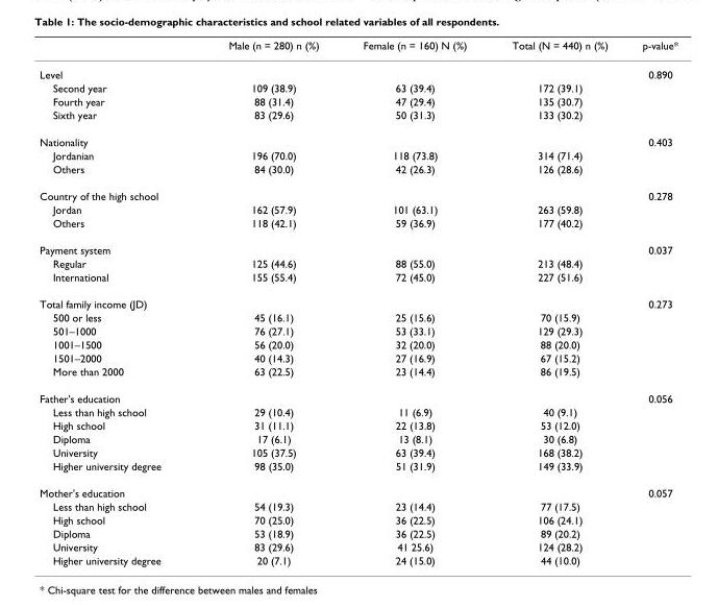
<table><thead><tr><td></td><td>Male (n = 280) n (%)</td><td>Female (n = 160) N (%)</td><td>Total (N = 440) n (%)</td><td>p-value*</td></tr></thead><tbody><tr><td>Level</td><td></td><td></td><td></td><td>0.890</td></tr><tr><td>Second year</td><td>109 (38.9)</td><td>63 (39.4)</td><td>172 (39.1)</td><td></td></tr><tr><td>Fourth year</td><td>88 (31.4)</td><td>47 (29.4)</td><td>135 (30.7)</td><td></td></tr><tr><td>Sixth year</td><td>83 (29.6)</td><td>50 (31.3)</td><td>133 (30.2)</td><td></td></tr><tr><td>Nationality</td><td></td><td></td><td></td><td>0.403</td></tr><tr><td>Jordanian</td><td>196 (70.0)</td><td>118 (73.8)</td><td>314 (71.4)</td><td></td></tr><tr><td>Others</td><td>84 (30.0)</td><td>42 (26.3)</td><td>126 (28.6)</td><td></td></tr><tr><td>Country of the high school</td><td></td><td></td><td></td><td>0.278</td></tr><tr><td>Jordan</td><td>162 (57.9)</td><td>101 (63.1)</td><td>263 (59.8)</td><td></td></tr><tr><td>Others</td><td>118 (42.1)</td><td>59 (36.9)</td><td>177 (40.2)</td><td></td></tr><tr><td>Payment system</td><td></td><td></td><td></td><td>0.037</td></tr><tr><td>Regular</td><td>125 (44.6)</td><td>88 (55.0)</td><td>213 (48.4)</td><td></td></tr><tr><td>International</td><td>155 (55.4)</td><td>72 (45.0)</td><td>227 (51.6)</td><td></td></tr><tr><td>Total family income (JD)</td><td></td><td></td><td></td><td>0.273</td></tr><tr><td>500 or less</td><td>45 (16.1)</td><td>25 (15.6)</td><td>70 (15.9)</td><td></td></tr><tr><td>501–1000</td><td>76 (27.1)</td><td>53 (33.1)</td><td>129 (29.3)</td><td></td></tr><tr><td>1001–1500</td><td>56 (20.0)</td><td>32 (20.0)</td><td>88 (20.0)</td><td></td></tr><tr><td>1501–2000</td><td>40 (14.3)</td><td>27 (16.9)</td><td>67 (15.2)</td><td></td></tr><tr><td>More than 2000</td><td>63 (22.5)</td><td>23 (14.4)</td><td>86 (19.5)</td><td></td></tr><tr><td>Father&#x27;s education</td><td></td><td></td><td></td><td>0.056</td></tr><tr><td>Less than high school</td><td>29 (10.4)</td><td>11 (6.9)</td><td>40 (9.1)</td><td></td></tr><tr><td>High school</td><td>31 (11.1)</td><td>22 (13.8)</td><td>53 (12.0)</td><td></td></tr><tr><td>Diploma</td><td>17 (6.1)</td><td>13 (8.1)</td><td>30 (6.8)</td><td></td></tr><tr><td>University</td><td>105 (37.5)</td><td>63 (39.4)</td><td>168 (38.2)</td><td></td></tr><tr><td>Higher university degree</td><td>98 (35.0)</td><td>51 (31.9)</td><td>149 (33.9)</td><td></td></tr><tr><td>Mother&#x27;s education</td><td></td><td></td><td></td><td>0.057</td></tr><tr><td>Less than high school</td><td>54 (19.3)</td><td>23 (14.4)</td><td>77 (17.5)</td><td></td></tr><tr><td>High school</td><td>70 (25.0)</td><td>36 (22.5)</td><td>106 (24.1)</td><td></td></tr><tr><td>Diploma</td><td>53 (18.9)</td><td>36 (22.5)</td><td>89 (20.2)</td><td></td></tr><tr><td>University</td><td>83 (29.6)</td><td>41 25.6)</td><td>124 (28.2)</td><td></td></tr><tr><td>Higher university degree</td><td>20 (7.1)</td><td>24 (15.0)</td><td>44 (10.0)</td><td></td></tr></tbody></table>